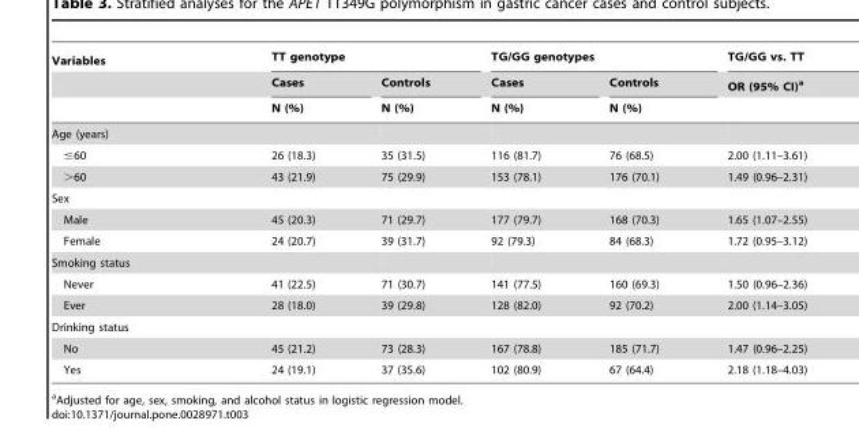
<table><thead><tr><td rowspan="3">Variables</td><td colspan="2">TT genotype</td><td colspan="2">TG/GG genotypes</td><td rowspan="3">TG/GG vs. TT OR (95% CI)<sup>a</sup></td></tr><tr><td rowspan="2">Cases N (%)</td><td rowspan="2">Controls N (%)</td><td rowspan="2">Cases N (%)</td><td rowspan="2">Controls N (%)</td></tr><tr></tr></thead><tbody><tr><td colspan="6">Age (years)</td></tr><tr><td>≤60</td><td>26 (18.3)</td><td>35 (31.5)</td><td>116 (81.7)</td><td>76 (68.5)</td><td>2.00 (1.11–3.61)</td></tr><tr><td>&gt;60</td><td>43 (21.9)</td><td>75 (29.9)</td><td>153 (78.1)</td><td>176 (70.1)</td><td>1.49 (0.96–2.31)</td></tr><tr><td colspan="6">Sex</td></tr><tr><td>Male</td><td>45 (20.3)</td><td>71 (29.7)</td><td>177 (79.7)</td><td>168 (70.3)</td><td>1.65 (1.07–2.55)</td></tr><tr><td>Female</td><td>24 (20.7)</td><td>39 (31.7)</td><td>92 (79.3)</td><td>84 (68.3)</td><td>1.72 (0.95–3.12)</td></tr><tr><td colspan="6">Smoking status</td></tr><tr><td>Never</td><td>41 (22.5)</td><td>71 (30.7)</td><td>141 (77.5)</td><td>160 (69.3)</td><td>1.50 (0.96–2.36)</td></tr><tr><td>Ever</td><td>28 (18.0)</td><td>39 (29.8)</td><td>128 (82.0)</td><td>92 (70.2)</td><td>2.00 (1.14–3.05)</td></tr><tr><td colspan="6">Drinking status</td></tr><tr><td>No</td><td>45 (21.2)</td><td>73 (28.3)</td><td>167 (78.8)</td><td>185 (71.7)</td><td>1.47 (0.96–2.25)</td></tr><tr><td>Yes</td><td>24 (19.1)</td><td>37 (35.6)</td><td>102 (80.9)</td><td>67 (64.4)</td><td>2.18 (1.18–4.03)</td></tr></tbody></table>